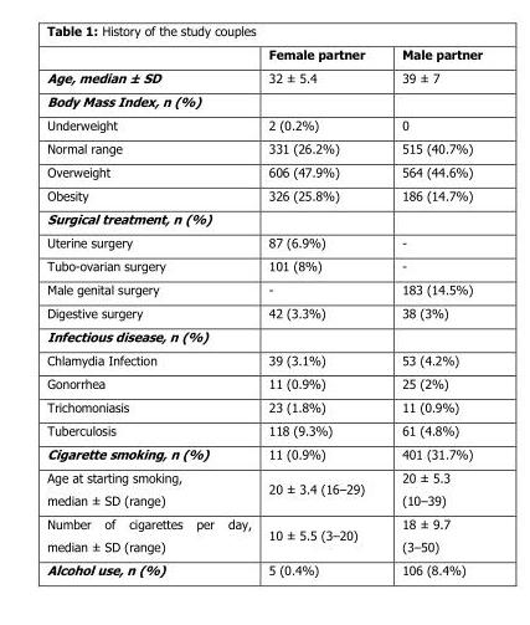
<table><thead><tr><td></td><td>Female partner</td><td>Male partner</td></tr></thead><tbody><tr><td>Age, median ± SD</td><td>32 ± 5.4</td><td>39 ± 7</td></tr><tr><td colspan="3">Body Mass Index, n (%)</td></tr><tr><td>Underweight</td><td>2 (0.2%)</td><td>0</td></tr><tr><td>Normal range</td><td>331 (26.2%)</td><td>515 (40.7%)</td></tr><tr><td>Overweight</td><td>606 (47.9%)</td><td>564 (44.6%)</td></tr><tr><td>Obesity</td><td>326 (25.8%)</td><td>186 (14.7%)</td></tr><tr><td colspan="3">Surgical treatment, n (%)</td></tr><tr><td>Uterine surgery</td><td>87 (6.9%)</td><td>-</td></tr><tr><td>Tubo-ovarian surgery</td><td>101 (8%)</td><td>-</td></tr><tr><td>Male genital surgery</td><td>-</td><td>183 (14.5%)</td></tr><tr><td>Digestive surgery</td><td>42 (3.3%)</td><td>38 (3%)</td></tr><tr><td colspan="3">Infectious disease, n (%)</td></tr><tr><td>Chlamydia Infection</td><td>39 (3.1%)</td><td>53 (4.2%)</td></tr><tr><td>Gonorrhea</td><td>11 (0.9%)</td><td>25 (2%)</td></tr><tr><td>Trichomoniasis</td><td>23 (1.8%)</td><td>11 (0.9%)</td></tr><tr><td>Tuberculosis</td><td>118 (9.3%)</td><td>61 (4.8%)</td></tr><tr><td>Cigarette smoking, n (%)</td><td>11 (0.9%)</td><td>401 (31.7%)</td></tr><tr><td>Age at starting smoking, median ± SD (range)</td><td>20 ± 3.4 (16–29)</td><td>20 ± 5.3 (10–39)</td></tr><tr><td>Number of cigarettes per day, median ± SD (range)</td><td>10 ± 5.5 (3–20)</td><td>18 ± 9.7 (3–50)</td></tr><tr><td>Alcohol use, n (%)</td><td>5 (0.4%)</td><td>106 (8.4%)</td></tr></tbody></table>